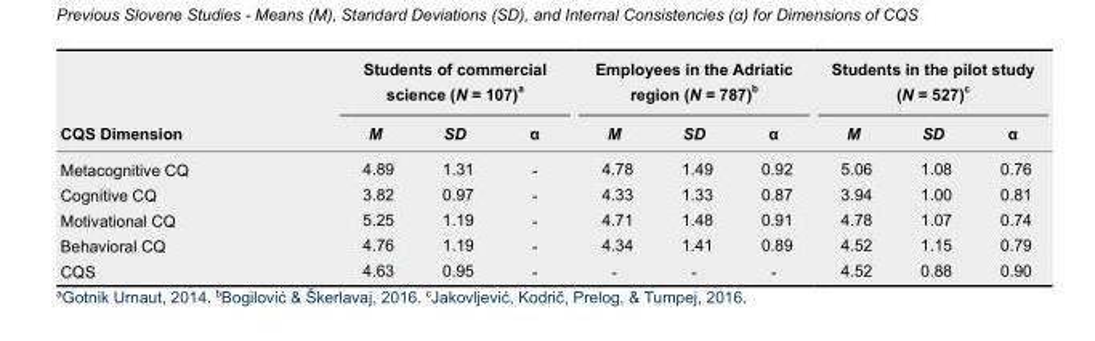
<table><thead><tr><td rowspan="2">CQS Dimension</td><td colspan="3">Students of commercial science (N = 107) <sup>a</sup></td><td colspan="3">Employees in the Adriatic region (N = 787) <sup>b</sup></td><td colspan="3">Students in the pilot study (N = 527) <sup>c</sup></td></tr><tr><td>M</td><td>SD</td><td>α</td><td>M</td><td>SD</td><td>α</td><td>M</td><td>SD</td><td>α</td></tr></thead><tbody><tr><td>Metacognitive CQ</td><td>4.89</td><td>1.31</td><td>-</td><td>4.78</td><td>1.49</td><td>0.92</td><td>5.06</td><td>1.08</td><td>0.76</td></tr><tr><td>Cognitive CQ</td><td>3.82</td><td>0.97</td><td>-</td><td>4.33</td><td>1.33</td><td>0.87</td><td>3.94</td><td>1.00</td><td>0.81</td></tr><tr><td>Motivational CQ</td><td>5.25</td><td>1.19</td><td>-</td><td>4.71</td><td>1.48</td><td>0.91</td><td>4.78</td><td>1.07</td><td>0.74</td></tr><tr><td>Behavioral CQ</td><td>4.76</td><td>1.19</td><td>-</td><td>4.34</td><td>1.41</td><td>0.89</td><td>4.52</td><td>1.15</td><td>0.79</td></tr><tr><td>CQS</td><td>4.63</td><td>0.95</td><td>-</td><td>-</td><td>-</td><td>-</td><td>4.52</td><td>0.88</td><td>0.90</td></tr></tbody></table>